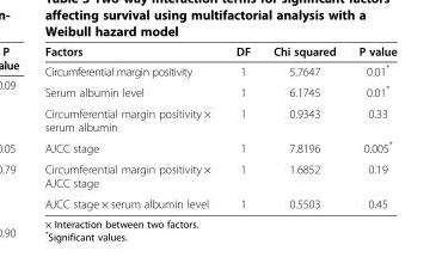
<table><thead><tr><td>Factors</td><td>DF</td><td>Chi squared</td><td>P value</td></tr></thead><tbody><tr><td>Circumferential margin positivity</td><td>1</td><td>5.7647</td><td>0.01*</td></tr><tr><td>Serum albumin level</td><td>1</td><td>6.1745</td><td>0.01*</td></tr><tr><td>Circumferential margin positivity × serum albumin</td><td>1</td><td>0.9343</td><td>0.33</td></tr><tr><td>AJCC stage</td><td>1</td><td>7.8196</td><td>0.005*</td></tr><tr><td>Circumferential margin positivity × AJCC stage</td><td>1</td><td>1.6852</td><td>0.19</td></tr><tr><td>AJCC stage × serum albumin level</td><td>1</td><td>0.5503</td><td>0.45</td></tr></tbody></table>